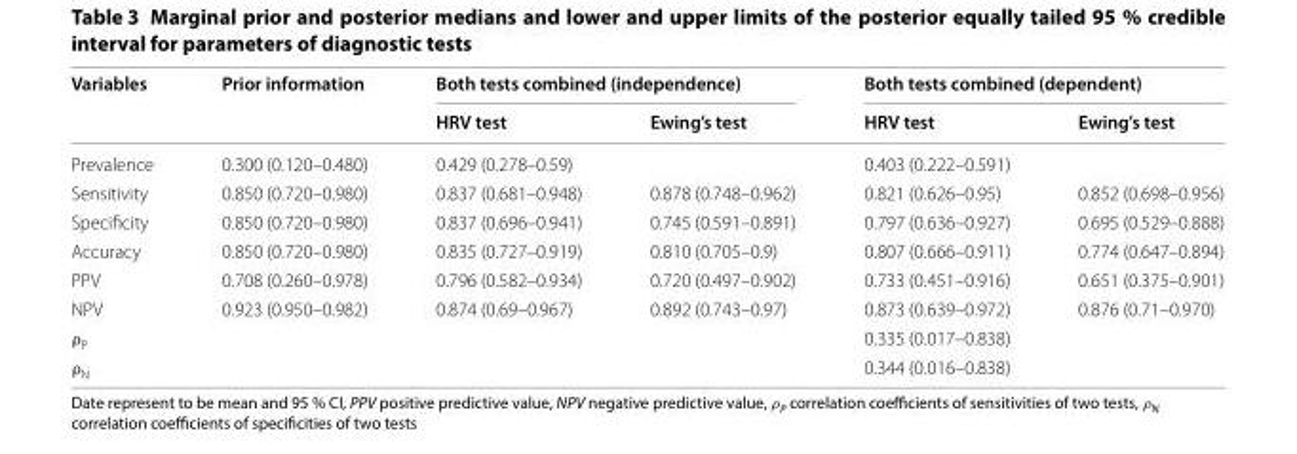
<table><thead><tr><td rowspan="2">Variables</td><td rowspan="2">Prior information</td><td colspan="2">Both tests combined (independence)</td><td colspan="2">Both tests combined (dependent)</td></tr><tr><td>HRV test</td><td>Ewing’s test</td><td>HRV test</td><td>Ewing’s test</td></tr></thead><tbody><tr><td>Prevalence</td><td>0.300 (0.120–0.480)</td><td colspan="2">0.429 (0.278–0.59)</td><td colspan="2">0.403 (0.222–0.591)</td></tr><tr><td>Sensitivity</td><td>0.850 (0.720–0.980)</td><td>0.837 (0.681–0.948)</td><td>0.878 (0.748–0.962)</td><td>0.821 (0.626–0.95)</td><td>0.852 (0.698–0.956)</td></tr><tr><td>Specificity</td><td>0.850 (0.720–0.980)</td><td>0.837 (0.696–0.941)</td><td>0.745 (0.591–0.891)</td><td>0.797 (0.636–0.927)</td><td>0.695 (0.529–0.888)</td></tr><tr><td>Accuracy</td><td>0.850 (0.720–0.980)</td><td>0.835 (0.727–0.919)</td><td>0.810 (0.705–0.9)</td><td>0.807 (0.666–0.911)</td><td>0.774 (0.647–0.894)</td></tr><tr><td>PPV</td><td>0.708 (0.260–0.978)</td><td>0.796 (0.582–0.934)</td><td>0.720 (0.497–0.902)</td><td>0.733 (0.451–0.916)</td><td>0.651 (0.375–0.901)</td></tr><tr><td>NPV</td><td>0.923 (0.950–0.982)</td><td>0.874 (0.69–0.967)</td><td>0.892 (0.743–0.97)</td><td>0.873 (0.639–0.972)</td><td>0.876 (0.71–0.970)</td></tr><tr><td>ρ<sub>P</sub></td><td></td><td></td><td></td><td colspan="2">0.335 (0.017–0.838)</td></tr><tr><td>ρ<sub>N</sub></td><td></td><td></td><td></td><td colspan="2">0.344 (0.016–0.838)</td></tr></tbody></table>